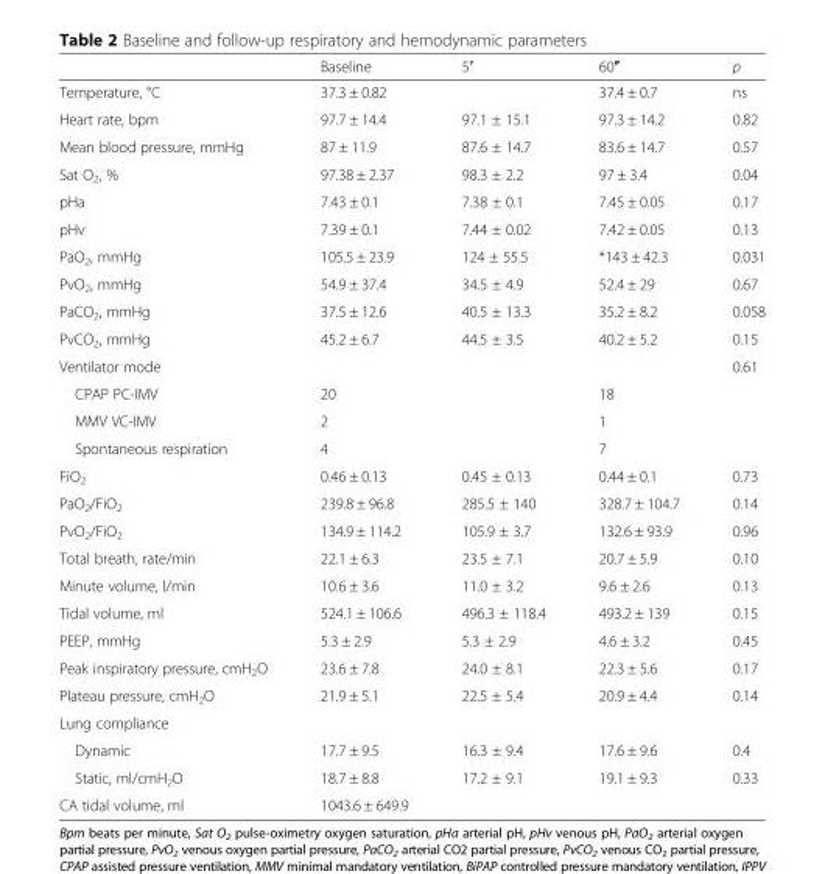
<table><thead><tr><td></td><td>Baseline</td><td>5′</td><td>60″</td><td>p</td></tr></thead><tbody><tr><td>Temperature, °C</td><td>37.3 ± 0.82</td><td></td><td>37.4 ± 0.7</td><td>ns</td></tr><tr><td>Heart rate, bpm</td><td>97.7 ± 14.4</td><td>97.1 ± 15.1</td><td>97.3 ± 14.2</td><td>0.82</td></tr><tr><td>Mean blood pressure, mmHg</td><td>87 ± 11.9</td><td>87.6 ± 14.7</td><td>83.6 ± 14.7</td><td>0.57</td></tr><tr><td>Sat O<sub>2</sub>, %</td><td>97.38 ± 2.37</td><td>98.3 ± 2.2</td><td>97 ± 3.4</td><td>0.04</td></tr><tr><td>pHa</td><td>7.43 ± 0.1</td><td>7.38 ± 0.1</td><td>7.45 ± 0.05</td><td>0.17</td></tr><tr><td>pHv</td><td>7.39 ± 0.1</td><td>7.44 ± 0.02</td><td>7.42 ± 0.05</td><td>0.13</td></tr><tr><td>PaO<sub>2</sub>, mmHg</td><td>105.5 ± 23.9</td><td>124 ± 55.5</td><td>*143 ± 42.3</td><td>0.031</td></tr><tr><td>PvO<sub>2</sub>, mmHg</td><td>54.9 ± 37.4</td><td>34.5 ± 4.9</td><td>52.4 ± 29</td><td>0.67</td></tr><tr><td>PaCO<sub>2</sub>, mmHg</td><td>37.5 ± 12.6</td><td>40.5 ± 13.3</td><td>35.2 ± 8.2</td><td>0.058</td></tr><tr><td>PvCO<sub>2</sub>, mmHg</td><td>45.2 ± 6.7</td><td>44.5 ± 3.5</td><td>40.2 ± 5.2</td><td>0.15</td></tr><tr><td>Ventilator mode</td><td></td><td></td><td></td><td>0.61</td></tr><tr><td>CPAP PC-IMV</td><td>20</td><td></td><td>18</td><td></td></tr><tr><td>MMV VC-IMV</td><td>2</td><td></td><td>1</td><td></td></tr><tr><td>Spontaneous respiration</td><td>4</td><td></td><td>7</td><td></td></tr><tr><td>FiO<sub>2</sub></td><td>0.46 ± 0.13</td><td>0.45 ± 0.13</td><td>0.44 ± 0.1</td><td>0.73</td></tr><tr><td>PaO<sub>2</sub>/FiO<sub>2</sub></td><td>239.8 ± 96.8</td><td>285.5 ± 140</td><td>328.7 ± 104.7</td><td>0.14</td></tr><tr><td>PvO<sub>2</sub>/FiO<sub>2</sub></td><td>134.9 ± 114.2</td><td>105.9 ± 3.7</td><td>132.6 ± 93.9</td><td>0.96</td></tr><tr><td>Total breath, rate/min</td><td>22.1 ± 6.3</td><td>23.5 ± 7.1</td><td>20.7 ± 5.9</td><td>0.10</td></tr><tr><td>Minute volume, l/min</td><td>10.6 ± 3.6</td><td>11.0 ± 3.2</td><td>9.6 ± 2.6</td><td>0.13</td></tr><tr><td>Tidal volume, ml</td><td>524.1 ± 106.6</td><td>496.3 ± 118.4</td><td>493.2 ± 139</td><td>0.15</td></tr><tr><td>PEEP, mmHg</td><td>5.3 ± 2.9</td><td>5.3 ± 2.9</td><td>4.6 ± 3.2</td><td>0.45</td></tr><tr><td>Peak inspiratory pressure, cmH<sub>2</sub>O</td><td>23.6 ± 7.8</td><td>24.0 ± 8.1</td><td>22.3 ± 5.6</td><td>0.17</td></tr><tr><td>Plateau pressure, cmH<sub>2</sub>O</td><td>21.9 ± 5.1</td><td>22.5 ± 5.4</td><td>20.9 ± 4.4</td><td>0.14</td></tr><tr><td colspan="5">Lung compliance</td></tr><tr><td>Dynamic</td><td>17.7 ± 9.5</td><td>16.3 ± 9.4</td><td>17.6 ± 9.6</td><td>0.4</td></tr><tr><td>Static, ml/cmH<sub>2</sub>O</td><td>18.7 ± 8.8</td><td>17.2 ± 9.1</td><td>19.1 ± 9.3</td><td>0.33</td></tr><tr><td>CA tidal volume, ml</td><td>1043.6 ± 649.9</td><td></td><td></td><td></td></tr></tbody></table>